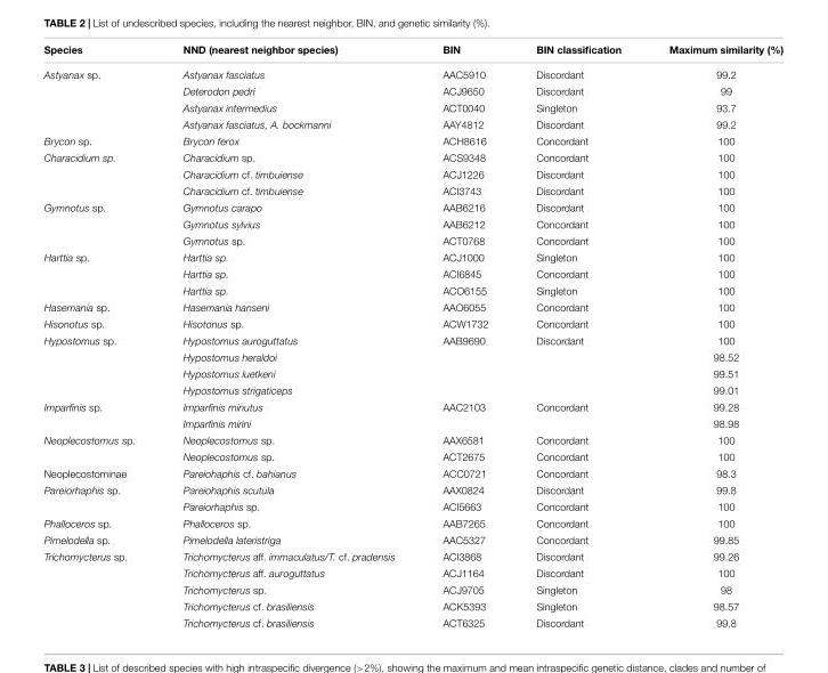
<table><thead><tr><td>Species</td><td>NND (nearest neighbor species)</td><td>BIN</td><td>BIN classification</td><td>Maximum similarity (%)</td></tr></thead><tbody><tr><td rowspan="4">Astyanax sp.</td><td>Astyanax fasciatus</td><td>AAC5910</td><td>Discordant</td><td>99.2</td></tr><tr><td>Deterodon pedri</td><td>ACJ9650</td><td>Discordant</td><td>99</td></tr><tr><td>Astyanax intermedius</td><td>ACT0040</td><td>Singleton</td><td>93.7</td></tr><tr><td>Astyanax fasciatus, A. bockmanni</td><td>AAY4812</td><td>Discordant</td><td>99.2</td></tr><tr><td>Brycon sp.</td><td>Brycon ferox</td><td>ACH8616</td><td>Concordant</td><td>100</td></tr><tr><td rowspan="3">Characidium sp.</td><td>Characidium sp.</td><td>ACS9348</td><td>Concordant</td><td>100</td></tr><tr><td>Characidium cf. timbuiense</td><td>ACJ1226</td><td>Discordant</td><td>100</td></tr><tr><td>Characidium cf. timbuiense</td><td>ACI3743</td><td>Discordant</td><td>100</td></tr><tr><td rowspan="3">Gymnotus sp.</td><td>Gymnotus carapo</td><td>AAB6216</td><td>Discordant</td><td>100</td></tr><tr><td>Gymnotus sylvius</td><td>AAB6212</td><td>Concordant</td><td>100</td></tr><tr><td>Gymnotus sp.</td><td>ACT0768</td><td>Concordant</td><td>100</td></tr><tr><td rowspan="3">Harttia sp.</td><td>Harttia sp.</td><td>ACJ1000</td><td>Singleton</td><td>100</td></tr><tr><td>Harttia sp.</td><td>ACI6845</td><td>Concordant</td><td>100</td></tr><tr><td>Harttia sp.</td><td>ACO6155</td><td>Singleton</td><td>100</td></tr><tr><td>Hasemania sp.</td><td>Hasemania hanseni</td><td>AAO6055</td><td>Concordant</td><td>100</td></tr><tr><td>Hisonotus sp.</td><td>Hisotonus sp.</td><td>ACW1732</td><td>Concordant</td><td>100</td></tr><tr><td rowspan="4">Hypostomus sp.</td><td>Hypostomus auroguttatus</td><td>AAB9690</td><td>Discordant</td><td>100</td></tr><tr><td>Hypostomus heraldoi</td><td></td><td></td><td>98.52</td></tr><tr><td>Hypostomus luetkeni</td><td></td><td></td><td>99.51</td></tr><tr><td>Hypostomus strigaticeps</td><td></td><td></td><td>99.01</td></tr><tr><td rowspan="2">Imparfinis sp.</td><td>Imparfinis minutus</td><td>AAC2103</td><td>Concordant</td><td>99.28</td></tr><tr><td>Imparfinis mirini</td><td></td><td></td><td>98.98</td></tr><tr><td rowspan="2">Neoplecostomus sp.</td><td>Neoplecostomus sp.</td><td>AAX6581</td><td>Concordant</td><td>100</td></tr><tr><td>Neoplecostomus sp.</td><td>ACT2675</td><td>Concordant</td><td>100</td></tr><tr><td>Neoplecostominae</td><td>Pareiohaphis cf. bahianus</td><td>ACC0721</td><td>Concordant</td><td>98.3</td></tr><tr><td rowspan="2">Pareiorhaphis sp.</td><td>Pareiohaphis scutula</td><td>AAX0824</td><td>Discordant</td><td>99.8</td></tr><tr><td>Pareiorhaphis sp.</td><td>ACI5663</td><td>Concordant</td><td>100</td></tr><tr><td>Phalloceros sp.</td><td>Phalloceros sp.</td><td>AAB7265</td><td>Concordant</td><td>100</td></tr><tr><td>Pimelodella sp.</td><td>Pimelodella lateristriga</td><td>AAC5327</td><td>Concordant</td><td>99.85</td></tr><tr><td rowspan="5">Trichomycterus sp.</td><td>Trichomycterus aff. immaculatus/T. cf. pradensis</td><td>ACI3868</td><td>Discordant</td><td>99.26</td></tr><tr><td>Trichomycterus aff. auroguttatus</td><td>ACJ1164</td><td>Discordant</td><td>100</td></tr><tr><td>Trichomycterus sp.</td><td>ACJ9705</td><td>Singleton</td><td>98</td></tr><tr><td>Trichomycterus cf. brasiliensis</td><td>ACK5393</td><td>Singleton</td><td>98.57</td></tr><tr><td>Trichomycterus cf. brasiliensis</td><td>ACT6325</td><td>Discordant</td><td>99.8</td></tr></tbody></table>